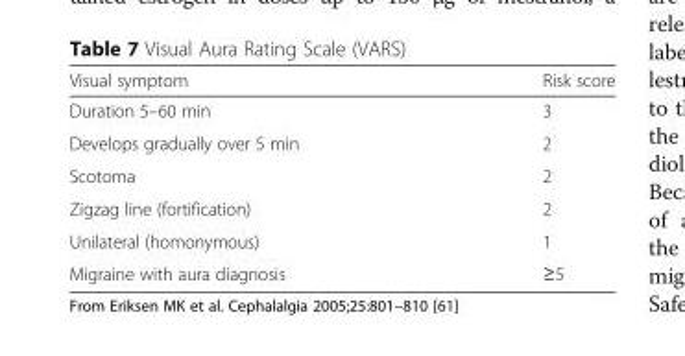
<table><thead><tr><td>Visual symptom</td><td>Risk score</td></tr></thead><tbody><tr><td>Duration 5–60 min</td><td>3</td></tr><tr><td>Develops gradually over 5 min</td><td>2</td></tr><tr><td>Scotoma</td><td>2</td></tr><tr><td>Zigzag line (fortification)</td><td>2</td></tr><tr><td>Unilateral (homonymous)</td><td>1</td></tr><tr><td>Migraine with aura diagnosis</td><td>≥5</td></tr></tbody></table>